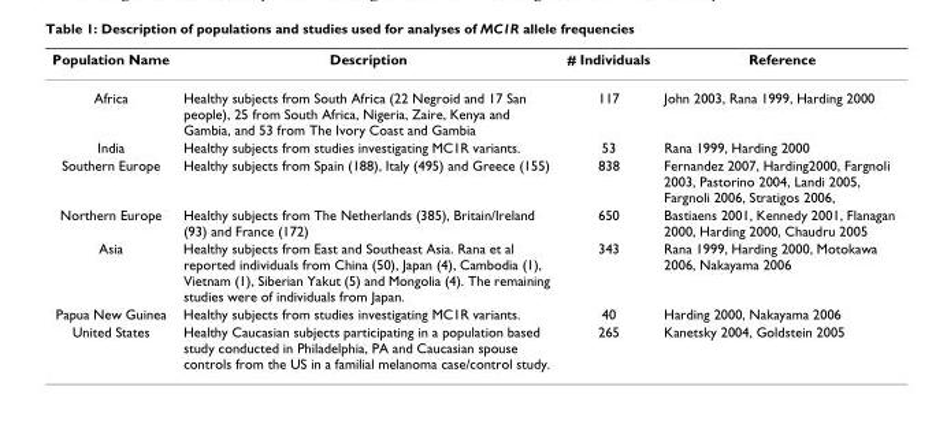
<table><thead><tr><td>Population Name</td><td>Description</td><td># Individuals</td><td>Reference</td></tr></thead><tbody><tr><td>Africa</td><td>Healthy subjects from South Africa (22 Negroid and 17 San people), 25 from South Africa, Nigeria, Zaire, Kenya and Gambia, and 53 from The Ivory Coast and Gambia</td><td>117</td><td>John 2003, Rana 1999, Harding 2000</td></tr><tr><td>India</td><td>Healthy subjects from studies investigating MC1R variants.</td><td>53</td><td>Rana 1999, Harding 2000</td></tr><tr><td>Southern Europe</td><td>Healthy subjects from Spain (188), Italy (495) and Greece (155)</td><td>838</td><td>Fernandez 2007, Harding2000, Fargnoli 2003, Pastorino 2004, Landi 2005, Fargnoli 2006, Stratigos 2006,</td></tr><tr><td>Northern Europe</td><td>Healthy subjects from The Netherlands (385), Britain/Ireland (93) and France (172)</td><td>650</td><td>Bastiaens 2001, Kennedy 2001, Flanagan 2000, Harding 2000, Chaudru 2005</td></tr><tr><td>Asia</td><td>Healthy subjects from East and Southeast Asia. Rana et al reported individuals from China (50), Japan (4), Cambodia (1), Vietnam (1), Siberian Yakut (5) and Mongolia (4). The remaining studies were of individuals from Japan.</td><td>343</td><td>Rana 1999, Harding 2000, Motokawa 2006, Nakayama 2006</td></tr><tr><td>Papua New Guinea</td><td>Healthy subjects from studies investigating MC1R variants.</td><td>40</td><td>Harding 2000, Nakayama 2006</td></tr><tr><td>United States</td><td>Healthy Caucasian subjects participating in a population based study conducted in Philadelphia, PA and Caucasian spouse controls from the US in a familial melanoma case/control study.</td><td>265</td><td>Kanetsky 2004, Goldstein 2005</td></tr></tbody></table>